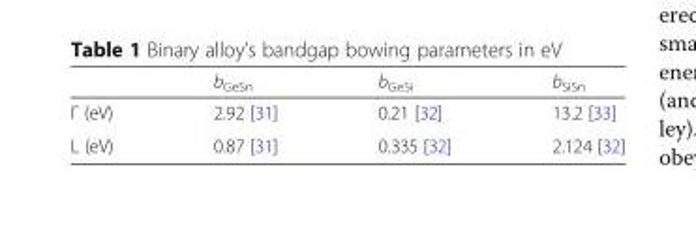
<table><thead><tr><td></td><td>b<sub>GeSn</sub></td><td>b<sub>GeSi</sub></td><td>b<sub>SiSn</sub></td></tr></thead><tbody><tr><td>Γ (eV)</td><td>2.92 [31]</td><td>0.21 [32]</td><td>13.2 [33]</td></tr><tr><td>L (eV)</td><td>0.87 [31]</td><td>0.335 [32]</td><td>2.124 [32]</td></tr></tbody></table>